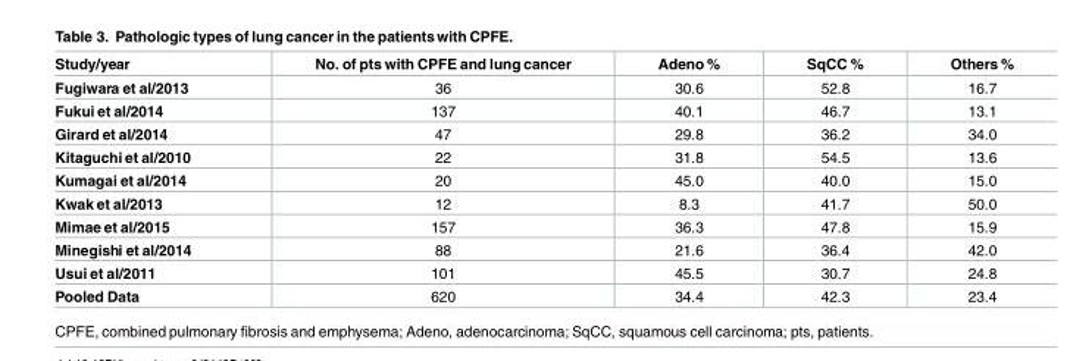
<table><thead><tr><td>Study/year</td><td>No. of pts with CPFE and lung cancer</td><td>Adeno %</td><td>SqCC %</td><td>Others %</td></tr></thead><tbody><tr><td>Fugiwara et al/2013</td><td>36</td><td>30.6</td><td>52.8</td><td>16.7</td></tr><tr><td>Fukui et al/2014</td><td>137</td><td>40.1</td><td>46.7</td><td>13.1</td></tr><tr><td>Girard et al/2014</td><td>47</td><td>29.8</td><td>36.2</td><td>34.0</td></tr><tr><td>Kitaguchi et al/2010</td><td>22</td><td>31.8</td><td>54.5</td><td>13.6</td></tr><tr><td>Kumagai et al/2014</td><td>20</td><td>45.0</td><td>40.0</td><td>15.0</td></tr><tr><td>Kwak et al/2013</td><td>12</td><td>8.3</td><td>41.7</td><td>50.0</td></tr><tr><td>Mimae et al/2015</td><td>157</td><td>36.3</td><td>47.8</td><td>15.9</td></tr><tr><td>Minegishi et al/2014</td><td>88</td><td>21.6</td><td>36.4</td><td>42.0</td></tr><tr><td>Usui et al/2011</td><td>101</td><td>45.5</td><td>30.7</td><td>24.8</td></tr><tr><td>Pooled Data</td><td>620</td><td>34.4</td><td>42.3</td><td>23.4</td></tr></tbody></table>